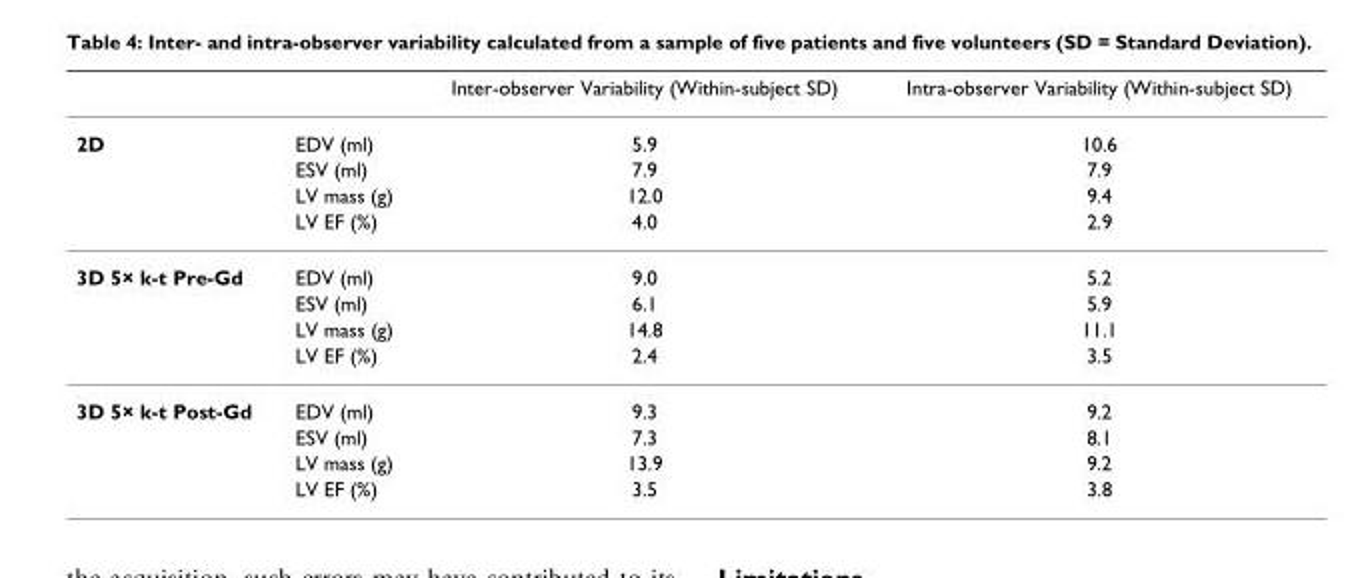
<table><thead><tr><td></td><td></td><td>Inter-observer Variability (Within-subject SD)</td><td>Intra-observer Variability (Within-subject SD)</td></tr></thead><tbody><tr><td rowspan="4">2D</td><td>EDV (ml)</td><td>5.9</td><td>10.6</td></tr><tr><td>ESV (ml)</td><td>7.9</td><td>7.9</td></tr><tr><td>LV mass (g)</td><td>12.0</td><td>9.4</td></tr><tr><td>LV EF (%)</td><td>4.0</td><td>2.9</td></tr><tr><td rowspan="4">3D 5× k-t Pre-Gd</td><td>EDV (ml)</td><td>9.0</td><td>5.2</td></tr><tr><td>ESV (ml)</td><td>6.1</td><td>5.9</td></tr><tr><td>LV mass (g)</td><td>14.8</td><td>11.1</td></tr><tr><td>LV EF (%)</td><td>2.4</td><td>3.5</td></tr><tr><td rowspan="4">3D 5× k-t Post-Gd</td><td>EDV (ml)</td><td>9.3</td><td>9.2</td></tr><tr><td>ESV (ml)</td><td>7.3</td><td>8.1</td></tr><tr><td>LV mass (g)</td><td>13.9</td><td>9.2</td></tr><tr><td>LV EF (%)</td><td>3.5</td><td>3.8</td></tr></tbody></table>